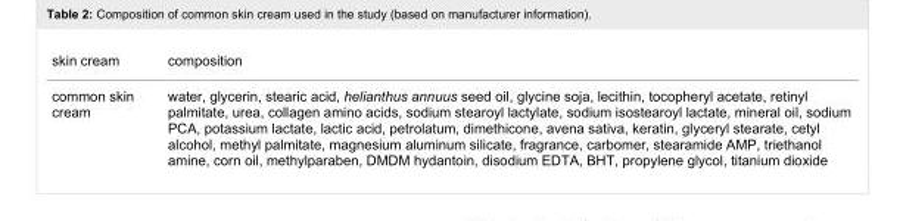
<table><tbody><tr><td>skin cream</td><td>composition</td></tr><tr><td>common skin cream</td><td>water, glycerin, stearic acid, helianthus annuus seed oil, glycine soja, lecithin, tocopheryl acetate, retinyl palmitate, urea, collagen amino acids, sodium stearoyl lactylate, sodium isostearoyl lactate, mineral oil, sodium PCA, potassium lactate, lactic acid, petrolatum, dimethicone, avena sativa, keratin, glyceryl stearate, cetyl alcohol, methyl palmitate, magnesium aluminum silicate, fragrance, carbomer, stearamide AMP, triethanol amine, corn oil, methylparaben, DMDM hydantoin, disodium EDTA, BHT, propylene glycol, titanium dioxide</td></tr></tbody></table>